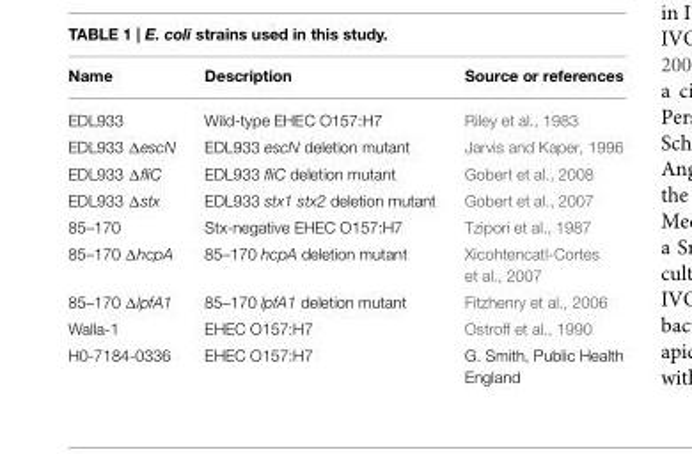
<table><thead><tr><td>Name</td><td>Description</td><td>Source or references</td></tr></thead><tbody><tr><td>EDL933</td><td>Wild-type EHEC O157:H7</td><td>Riley et al., 1983</td></tr><tr><td>EDL933 ΔescN</td><td>EDL933 escN deletion mutant</td><td>Jarvis and Kaper, 1996</td></tr><tr><td>EDL933 ΔfliC</td><td>EDL933 fliC deletion mutant</td><td>Gobert et al., 2008</td></tr><tr><td>EDL933 Δstx</td><td>EDL933 stx1 stx2 deletion mutant</td><td>Gobert et al., 2007</td></tr><tr><td>85–170</td><td>Stx-negative EHEC O157:H7</td><td>Tzipori et al., 1987</td></tr><tr><td>85–170 ΔhcpA</td><td>85–170 hcpA deletion mutant</td><td>Xicohtencatl-Cortes et al., 2007</td></tr><tr><td>85–170 ΔlpfA1</td><td>85–170 lpfA1 deletion mutant</td><td>Fitzhenry et al., 2006</td></tr><tr><td>Walla-1</td><td>EHEC O157:H7</td><td>Ostroff et al., 1990</td></tr><tr><td>H0-7184-0336</td><td>EHEC O157:H7</td><td>G. Smith, Public Health England</td></tr></tbody></table>